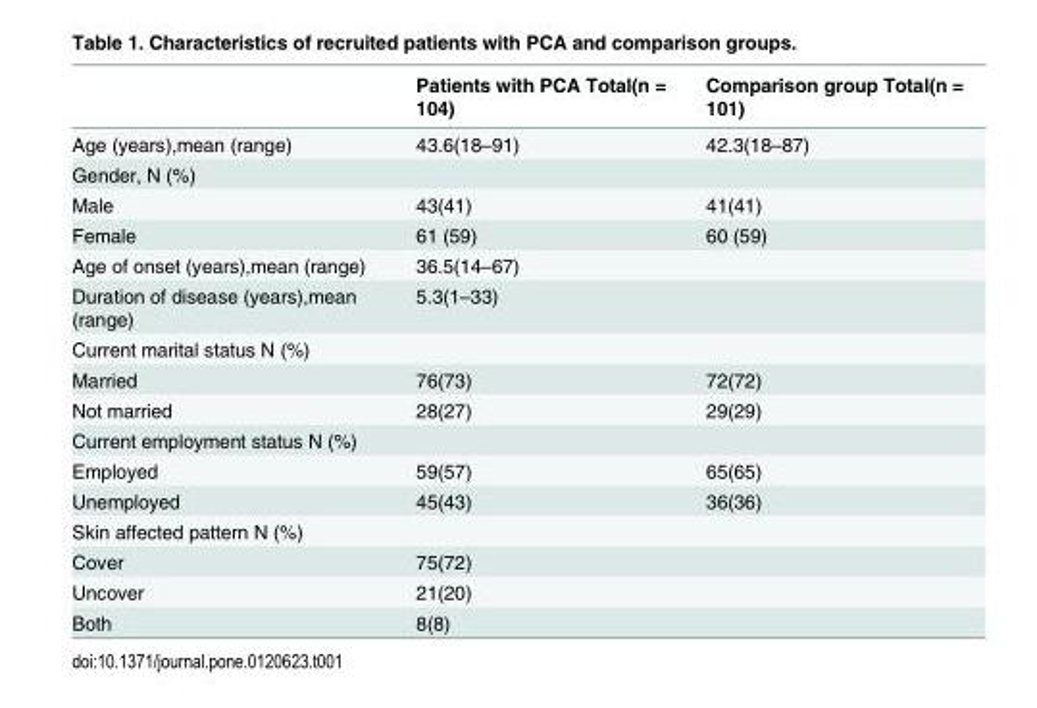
<table><thead><tr><td></td><td>Patients with PCA Total(n = 104)</td><td>Comparison group Total(n = 101)</td></tr></thead><tbody><tr><td>Age (years),mean (range)</td><td>43.6(18–91)</td><td>42.3(18–87)</td></tr><tr><td colspan="3">Gender, N (%)</td></tr><tr><td>Male</td><td>43(41)</td><td>41(41)</td></tr><tr><td>Female</td><td>61 (59)</td><td>60 (59)</td></tr><tr><td>Age of onset (years),mean (range)</td><td>36.5(14–67)</td><td></td></tr><tr><td>Duration of disease (years),mean (range)</td><td>5.3(1–33)</td><td></td></tr><tr><td colspan="3">Current marital status N (%)</td></tr><tr><td>Married</td><td>76(73)</td><td>72(72)</td></tr><tr><td>Not married</td><td>28(27)</td><td>29(29)</td></tr><tr><td colspan="3">Current employment status N (%)</td></tr><tr><td>Employed</td><td>59(57)</td><td>65(65)</td></tr><tr><td>Unemployed</td><td>45(43)</td><td>36(36)</td></tr><tr><td colspan="3">Skin affected pattern N (%)</td></tr><tr><td>Cover</td><td>75(72)</td><td></td></tr><tr><td>Uncover</td><td>21(20)</td><td></td></tr><tr><td>Both</td><td>8(8)</td><td></td></tr></tbody></table>